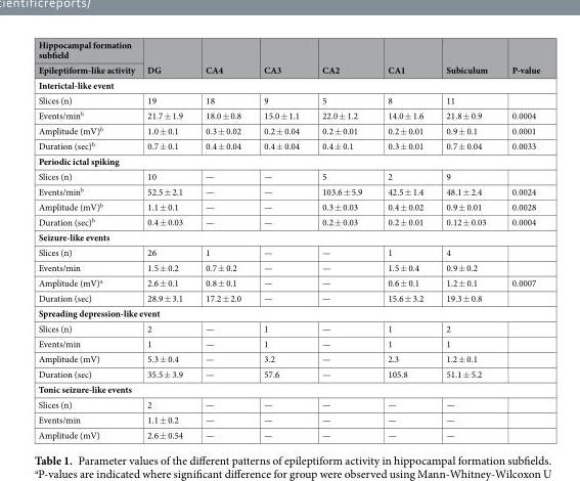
<table><thead><tr><td rowspan="2">Hippocampal formation subfield Epileptiform-like activity</td><td rowspan="2">DG</td><td rowspan="2">CA4</td><td rowspan="2">CA3</td><td rowspan="2">CA2</td><td rowspan="2">CA1</td><td rowspan="2">Subiculum</td><td rowspan="2">P-value</td></tr><tr></tr></thead><tbody><tr><td colspan="8">Interictal-like event</td></tr><tr><td>Slices (n)</td><td>19</td><td>18</td><td>9</td><td>5</td><td>8</td><td>11</td><td></td></tr><tr><td>Events/min<sup>b</sup></td><td>21.7 ± 1.9</td><td>18.0 ± 0.8</td><td>15.0 ± 1.1</td><td>22.0 ± 1.2</td><td>14.0 ± 1.6</td><td>21.8 ± 0.9</td><td>0.0004</td></tr><tr><td>Amplitude (mV)<sup>b</sup></td><td>1.0 ± 0.1</td><td>0.3 ± 0.02</td><td>0.2 ± 0.04</td><td>0.2 ± 0.01</td><td>0.2 ± 0.01</td><td>0.9 ± 0.1</td><td>0.0001</td></tr><tr><td>Duration (sec)<sup>b</sup></td><td>0.7 ± 0.1</td><td>0.4 ± 0.04</td><td>0.4 ± 0.04</td><td>0.4 ± 0.1</td><td>0.3 ± 0.01</td><td>0.7 ± 0.04</td><td>0.0033</td></tr><tr><td colspan="8">Periodic ictal spiking</td></tr><tr><td>Slices (n)</td><td>10</td><td>—</td><td>—</td><td>5</td><td>2</td><td>9</td><td></td></tr><tr><td>Events/min<sup>b</sup></td><td>52.5 ± 2.1</td><td>—</td><td>—</td><td>103.6 ± 5.9</td><td>42.5 ± 1.4</td><td>48.1 ± 2.4</td><td>0.0024</td></tr><tr><td>Amplitude (mV)<sup>b</sup></td><td>1.1 ± 0.1</td><td>—</td><td>—</td><td>0.3 ± 0.03</td><td>0.4 ± 0.02</td><td>0.9 ± 0.01</td><td>0.0028</td></tr><tr><td>Duration (sec)<sup>b</sup></td><td>0.4 ± 0.03</td><td>—</td><td>—</td><td>0.2 ± 0.03</td><td>0.2 ± 0.01</td><td>0.12 ± 0.03</td><td>0.0004</td></tr><tr><td colspan="8">Seizure-like events</td></tr><tr><td>Slices (n)</td><td>26</td><td>1</td><td>—</td><td>—</td><td>1</td><td>4</td><td></td></tr><tr><td>Events/min</td><td>1.5 ± 0.2</td><td>0.7 ± 0.2</td><td>—</td><td>—</td><td>1.5 ± 0.4</td><td>0.9 ± 0.2</td><td></td></tr><tr><td>Amplitude (mV)<sup>a</sup></td><td>2.6 ± 0.1</td><td>0.8 ± 0.1</td><td>—</td><td>—</td><td>0.6 ± 0.1</td><td>1.2 ± 0.1</td><td>0.0007</td></tr><tr><td>Duration (sec)</td><td>28.9 ± 3.1</td><td>17.2 ± 2.0</td><td>—</td><td>—</td><td>15.6 ± 3.2</td><td>19.3 ± 0.8</td><td></td></tr><tr><td colspan="8">Spreading depression-like event</td></tr><tr><td>Slices (n)</td><td>2</td><td>—</td><td>1</td><td>—</td><td>1</td><td>2</td><td></td></tr><tr><td>Events/min</td><td>1</td><td>—</td><td>1</td><td>—</td><td>1</td><td>1</td><td></td></tr><tr><td>Amplitude (mV)</td><td>5.3 ± 0.4</td><td>—</td><td>3.2</td><td>—</td><td>2.3</td><td>1.2 ± 0.1</td><td></td></tr><tr><td>Duration (sec)</td><td>35.5 ± 3.9</td><td>—</td><td>57.6</td><td>—</td><td>105.8</td><td>51.1 ± 5.2</td><td></td></tr><tr><td colspan="8">Tonic seizure-like events</td></tr><tr><td>Slices (n)</td><td>2</td><td>—</td><td>—</td><td>—</td><td>—</td><td>—</td><td></td></tr><tr><td>Events/min</td><td>1.1 ± 0.2</td><td>—</td><td>—</td><td>—</td><td>—</td><td>—</td><td></td></tr><tr><td>Amplitude (mV)</td><td>2.6 ± 0.54</td><td>—</td><td>—</td><td>—</td><td>—</td><td>—</td><td></td></tr></tbody></table>